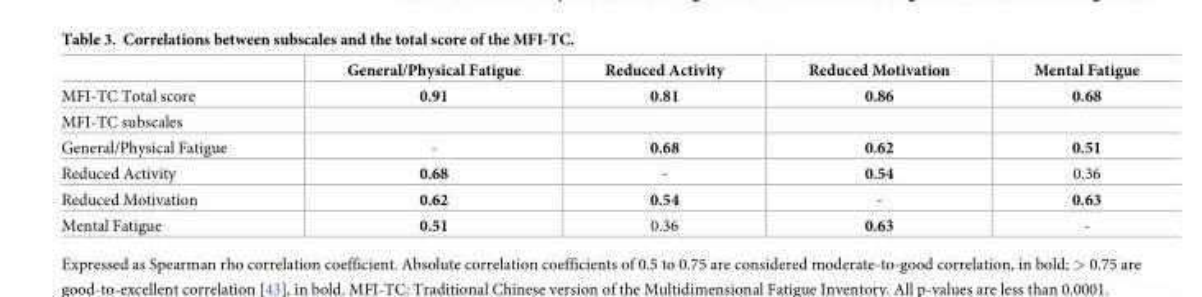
<table><thead><tr><td></td><td>General/Physical Fatigue</td><td>Reduced Activity</td><td>Reduced Motivation</td><td>Mental Fatigue</td></tr></thead><tbody><tr><td>MFI-TC Total score</td><td>0.91</td><td>0.81</td><td>0.86</td><td>0.68</td></tr><tr><td colspan="5">MFI-TC subscales</td></tr><tr><td>General/Physical Fatigue</td><td>-</td><td>0.68</td><td>0.62</td><td>0.51</td></tr><tr><td>Reduced Activity</td><td>0.68</td><td>-</td><td>0.54</td><td>0.36</td></tr><tr><td>Reduced Motivation</td><td>0.62</td><td>0.54</td><td>-</td><td>0.63</td></tr><tr><td>Mental Fatigue</td><td>0.51</td><td>0.36</td><td>0.63</td><td>-</td></tr></tbody></table>